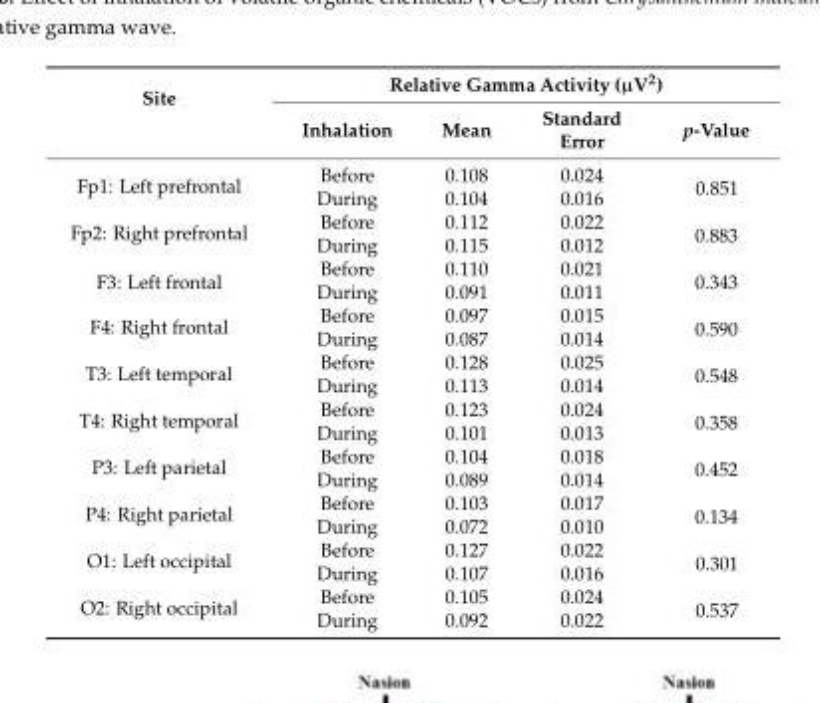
<table><thead><tr><td rowspan="2">Site</td><td colspan="4">Relative Gamma Activity (µV<sup>2</sup>)</td></tr><tr><td>Inhalation</td><td>Mean</td><td>Standard Error</td><td>p-Value</td></tr></thead><tbody><tr><td rowspan="2">Fp1: Left prefrontal</td><td>Before</td><td>0.108</td><td>0.024</td><td rowspan="2">0.851</td></tr><tr><td>During</td><td>0.104</td><td>0.016</td></tr><tr><td rowspan="2">Fp2: Right prefrontal</td><td>Before</td><td>0.112</td><td>0.022</td><td rowspan="2">0.883</td></tr><tr><td>During</td><td>0.115</td><td>0.012</td></tr><tr><td rowspan="2">F3: Left frontal</td><td>Before</td><td>0.110</td><td>0.021</td><td rowspan="2">0.343</td></tr><tr><td>During</td><td>0.091</td><td>0.011</td></tr><tr><td rowspan="2">F4: Right frontal</td><td>Before</td><td>0.097</td><td>0.015</td><td rowspan="2">0.590</td></tr><tr><td>During</td><td>0.087</td><td>0.014</td></tr><tr><td rowspan="2">T3: Left temporal</td><td>Before</td><td>0.128</td><td>0.025</td><td rowspan="2">0.548</td></tr><tr><td>During</td><td>0.113</td><td>0.014</td></tr><tr><td rowspan="2">T4: Right temporal</td><td>Before</td><td>0.123</td><td>0.024</td><td rowspan="2">0.358</td></tr><tr><td>During</td><td>0.101</td><td>0.013</td></tr><tr><td rowspan="2">P3: Left parietal</td><td>Before</td><td>0.104</td><td>0.018</td><td rowspan="2">0.452</td></tr><tr><td>During</td><td>0.089</td><td>0.014</td></tr><tr><td rowspan="2">P4: Right parietal</td><td>Before</td><td>0.103</td><td>0.017</td><td rowspan="2">0.134</td></tr><tr><td>During</td><td>0.072</td><td>0.010</td></tr><tr><td rowspan="2">O1: Left occipital</td><td>Before</td><td>0.127</td><td>0.022</td><td rowspan="2">0.301</td></tr><tr><td>During</td><td>0.107</td><td>0.016</td></tr><tr><td rowspan="2">O2: Right occipital</td><td>Before</td><td>0.105</td><td>0.024</td><td rowspan="2">0.537</td></tr><tr><td>During</td><td>0.092</td><td>0.022</td></tr></tbody></table>